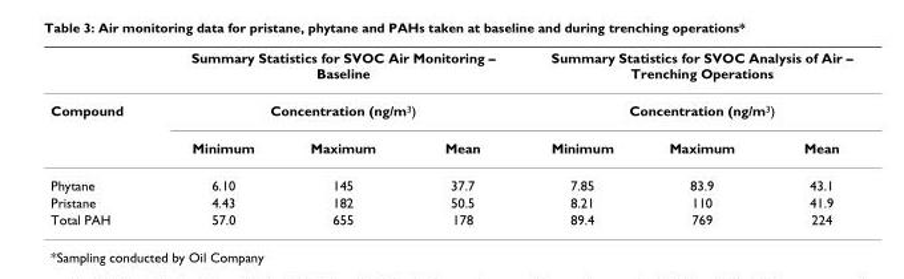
<table><thead><tr><td rowspan="3">Compound</td><td rowspan="2" colspan="3">Summary Statistics for SVOC Air Monitoring – Baseline Concentration (ng/m3)</td><td rowspan="2" colspan="3">Summary Statistics for SVOC Analysis of Air – Trenching Operations Concentration (ng/m3)</td></tr><tr></tr><tr><td>Minimum</td><td>Maximum</td><td>Mean</td><td>Minimum</td><td>Maximum</td><td>Mean</td></tr></thead><tbody><tr><td>Phytane</td><td>6.10</td><td>145</td><td>37.7</td><td>7.85</td><td>83.9</td><td>43.1</td></tr><tr><td>Pristane</td><td>4.43</td><td>182</td><td>50.5</td><td>8.21</td><td>110</td><td>41.9</td></tr><tr><td>Total PAH</td><td>57.0</td><td>655</td><td>178</td><td>89.4</td><td>769</td><td>224</td></tr></tbody></table>